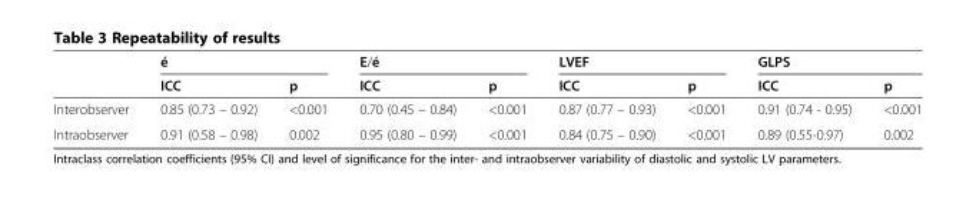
<table><thead><tr><td rowspan="2"></td><td colspan="2">é</td><td colspan="2">E/é</td><td colspan="2">LVEF</td><td colspan="2">GLPS</td></tr><tr><td>ICC</td><td>p</td><td>ICC</td><td>p</td><td>ICC</td><td>p</td><td>ICC</td><td>p</td></tr></thead><tbody><tr><td>Interobserver</td><td>0.85 (0.73 – 0.92)</td><td>&lt;0.001</td><td>0.70 (0.45 – 0.84)</td><td>&lt;0.001</td><td>0.87 (0.77 – 0.93)</td><td>&lt;0.001</td><td>0.91 (0.74 - 0.95)</td><td>&lt;0.001</td></tr><tr><td>Intraobserver</td><td>0.91 (0.58 – 0.98)</td><td>0.002</td><td>0.95 (0.80 – 0.99)</td><td>&lt;0.001</td><td>0.84 (0.75 – 0.90)</td><td>&lt;0.001</td><td>0.89 (0.55-0.97)</td><td>0.002</td></tr></tbody></table>